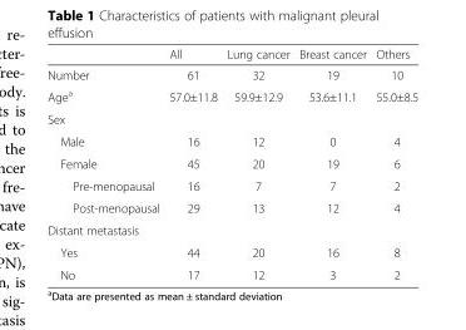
<table><thead><tr><td></td><td>All</td><td>Lung cancer</td><td>Breast cancer</td><td>Others</td></tr></thead><tbody><tr><td>Number</td><td>61</td><td>32</td><td>19</td><td>10</td></tr><tr><td>Age<sup>a</sup></td><td>57.0±11.8</td><td>59.9±12.9</td><td>53.6±11.1</td><td>55.0±8.5</td></tr><tr><td colspan="5">Sex</td></tr><tr><td>Male</td><td>16</td><td>12</td><td>0</td><td>4</td></tr><tr><td>Female</td><td>45</td><td>20</td><td>19</td><td>6</td></tr><tr><td>Pre-menopausal</td><td>16</td><td>7</td><td>7</td><td>2</td></tr><tr><td>Post-menopausal</td><td>29</td><td>13</td><td>12</td><td>4</td></tr><tr><td colspan="5">Distant metastasis</td></tr><tr><td>Yes</td><td>44</td><td>20</td><td>16</td><td>8</td></tr><tr><td>No</td><td>17</td><td>12</td><td>3</td><td>2</td></tr></tbody></table>